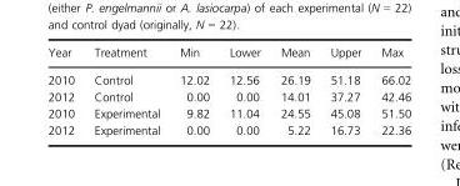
<table><thead><tr><td>Year</td><td>Treatment</td><td>Min</td><td>Lower</td><td>Mean</td><td>Upper</td><td>Max</td></tr></thead><tbody><tr><td>2010</td><td>Control</td><td>12.02</td><td>12.56</td><td>26.19</td><td>51.18</td><td>66.02</td></tr><tr><td>2012</td><td>Control</td><td>0.00</td><td>0.00</td><td>14.01</td><td>37.27</td><td>42.46</td></tr><tr><td>2010</td><td>Experimental</td><td>9.82</td><td>11.04</td><td>24.55</td><td>45.08</td><td>51.50</td></tr><tr><td>2012</td><td>Experimental</td><td>0.00</td><td>0.00</td><td>5.22</td><td>16.73</td><td>22.36</td></tr></tbody></table>